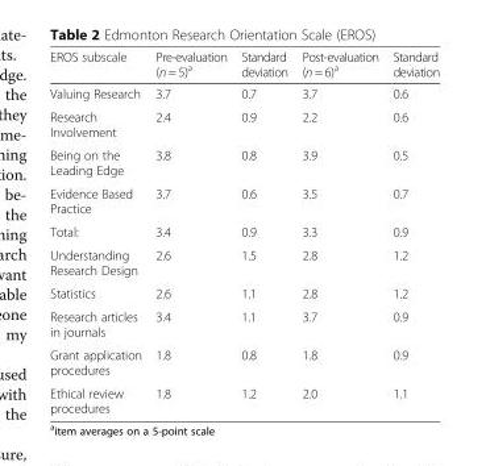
<table><thead><tr><td>EROS subscale</td><td>Pre-evaluation (n = 5)<sup>a</sup></td><td>Standard deviation</td><td>Post-evaluation (n = 6)<sup>a</sup></td><td>Standard deviation</td></tr></thead><tbody><tr><td>Valuing Research</td><td>3.7</td><td>0.7</td><td>3.7</td><td>0.6</td></tr><tr><td>Research Involvement</td><td>2.4</td><td>0.9</td><td>2.2</td><td>0.6</td></tr><tr><td>Being on the Leading Edge</td><td>3.8</td><td>0.8</td><td>3.9</td><td>0.5</td></tr><tr><td>Evidence Based Practice</td><td>3.7</td><td>0.6</td><td>3.5</td><td>0.7</td></tr><tr><td>Total:</td><td>3.4</td><td>0.9</td><td>3.3</td><td>0.9</td></tr><tr><td>Understanding Research Design</td><td>2.6</td><td>1.5</td><td>2.8</td><td>1.2</td></tr><tr><td>Statistics</td><td>2.6</td><td>1.1</td><td>2.8</td><td>1.2</td></tr><tr><td>Research articles in journals</td><td>3.4</td><td>1.1</td><td>3.7</td><td>0.9</td></tr><tr><td>Grant application procedures</td><td>1.8</td><td>0.8</td><td>1.8</td><td>0.9</td></tr><tr><td>Ethical review procedures</td><td>1.8</td><td>1.2</td><td>2.0</td><td>1.1</td></tr></tbody></table>